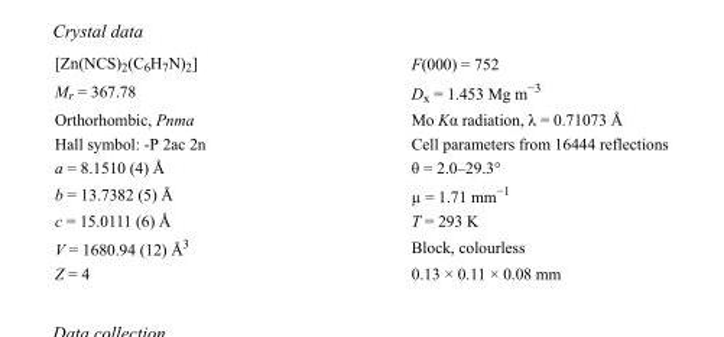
<table><tbody><tr><td>[Zn(NCS)<sub>2</sub>(C<sub>6</sub>H<sub>7</sub>N)<sub>2</sub>]</td><td>F(000) = 752</td></tr><tr><td>M<sub>r</sub> = 367.78</td><td>D<sub>x</sub> = 1.453 Mg m<sup>−3</sup></td></tr><tr><td>Orthorhombic, Pnma</td><td>Mo Kα radiation, λ = 0.71073 Å</td></tr><tr><td>Hall symbol: -P 2ac 2n</td><td>Cell parameters from 16444 reflections</td></tr><tr><td>a = 8.1510 (4) Å</td><td>θ = 2.0–29.3°</td></tr><tr><td>b = 13.7382 (5) Å</td><td>µ = 1.71 mm<sup>−1</sup></td></tr><tr><td>c = 15.0111 (6) Å</td><td>T = 293 K</td></tr><tr><td>V = 1680.94 (12) Å<sup>3</sup></td><td>Block, colourless</td></tr><tr><td>Z = 4</td><td>0.13 × 0.11 × 0.08 mm</td></tr></tbody></table>